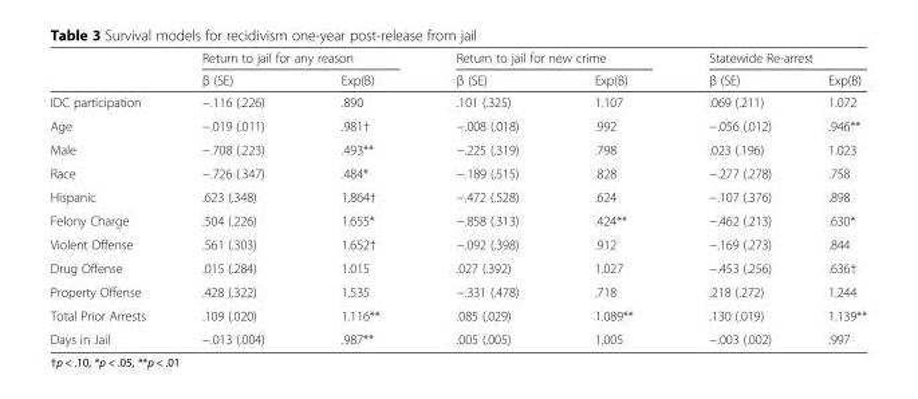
<table><thead><tr><td rowspan="2"></td><td colspan="2">Return to jail for any reason</td><td colspan="2">Return to jail for new crime</td><td colspan="2">Statewide Re-arrest</td></tr><tr><td>β (SE)</td><td>Exp(B)</td><td>β (SE)</td><td>Exp(B)</td><td>β (SE)</td><td>Exp(B)</td></tr></thead><tbody><tr><td>IDC participation</td><td>−.116 (.226)</td><td>.890</td><td>.101 (.325)</td><td>1.107</td><td>.069 (.211)</td><td>1.072</td></tr><tr><td>Age</td><td>−.019 (.011)</td><td>.981†</td><td>−.008 (.018)</td><td>.992</td><td>−.056 (.012)</td><td>.946**</td></tr><tr><td>Male</td><td>−.708 (.223)</td><td>.493**</td><td>−.225 (.319)</td><td>.798</td><td>.023 (.196)</td><td>1.023</td></tr><tr><td>Race</td><td>−.726 (.347)</td><td>.484*</td><td>−.189 (.515)</td><td>.828</td><td>−.277 (.278)</td><td>.758</td></tr><tr><td>Hispanic</td><td>.623 (.348)</td><td>1.864†</td><td>−.472 (.528)</td><td>.624</td><td>−.107 (.376)</td><td>.898</td></tr><tr><td>Felony Charge</td><td>.504 (.226)</td><td>1.655*</td><td>−.858 (.313)</td><td>.424**</td><td>−.462 (.213)</td><td>.630*</td></tr><tr><td>Violent Offense</td><td>.561 (.303)</td><td>1.652†</td><td>−.092 (.398)</td><td>.912</td><td>−.169 (.273)</td><td>.844</td></tr><tr><td>Drug Offense</td><td>.015 (.284)</td><td>1.015</td><td>.027 (.392)</td><td>1.027</td><td>−.453 (.256)</td><td>.636†</td></tr><tr><td>Property Offense</td><td>.428 (.322)</td><td>1.535</td><td>−.331 (.478)</td><td>.718</td><td>.218 (.272)</td><td>1.244</td></tr><tr><td>Total Prior Arrests</td><td>.109 (.020)</td><td>1.116**</td><td>.085 (.029)</td><td>1.089**</td><td>.130 (.019)</td><td>1.139**</td></tr><tr><td>Days in Jail</td><td>−.013 (.004)</td><td>.987**</td><td>.005 (.005)</td><td>1.005</td><td>−.003 (.002)</td><td>.997</td></tr></tbody></table>